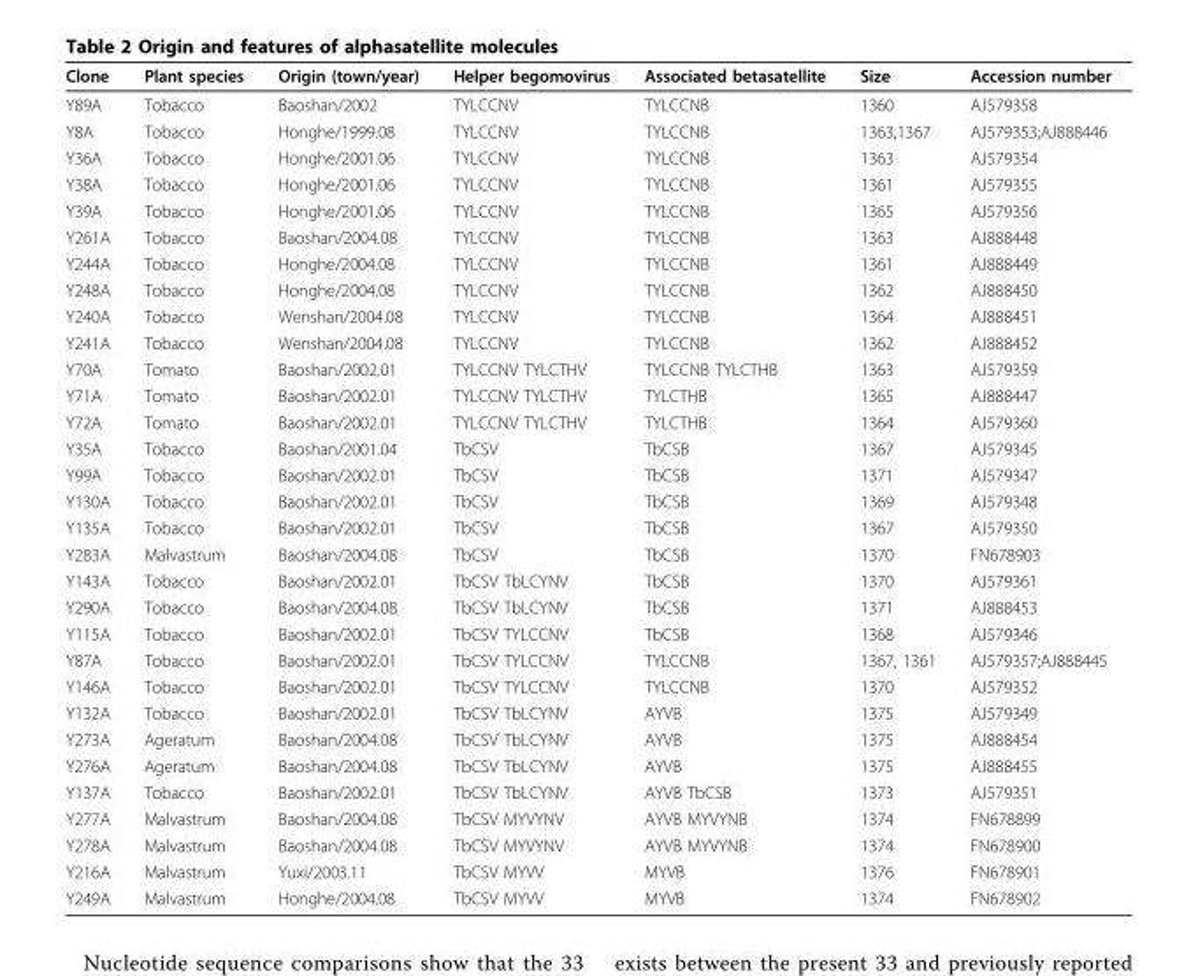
<table><thead><tr><td>Clone</td><td>Plant species</td><td>Origin (town/year)</td><td>Helper begomovirus</td><td>Associated betasatellite</td><td>Size</td><td>Accession number</td></tr></thead><tbody><tr><td>Y89A</td><td>Tobacco</td><td>Baoshan/2002</td><td>TYLCCNV</td><td>TYLCCNB</td><td>1360</td><td>AJ579358</td></tr><tr><td>Y8A</td><td>Tobacco</td><td>Honghe/1999.08</td><td>TYLCCNV</td><td>TYLCCNB</td><td>1363,1367</td><td>AJ579353;AJ888446</td></tr><tr><td>Y36A</td><td>Tobacco</td><td>Honghe/2001.06</td><td>TYLCCNV</td><td>TYLCCNB</td><td>1363</td><td>AJ579354</td></tr><tr><td>Y38A</td><td>Tobacco</td><td>Honghe/2001.06</td><td>TYLCCNV</td><td>TYLCCNB</td><td>1361</td><td>AJ579355</td></tr><tr><td>Y39A</td><td>Tobacco</td><td>Honghe/2001.06</td><td>TYLCCNV</td><td>TYLCCNB</td><td>1365</td><td>AJ579356</td></tr><tr><td>Y261A</td><td>Tobacco</td><td>Baoshan/2004.08</td><td>TYLCCNV</td><td>TYLCCNB</td><td>1363</td><td>AJ888448</td></tr><tr><td>Y244A</td><td>Tobacco</td><td>Honghe/2004.08</td><td>TYLCCNV</td><td>TYLCCNB</td><td>1361</td><td>AJ888449</td></tr><tr><td>Y248A</td><td>Tobacco</td><td>Honghe/2004.08</td><td>TYLCCNV</td><td>TYLCCNB</td><td>1362</td><td>AJ888450</td></tr><tr><td>Y240A</td><td>Tobacco</td><td>Wenshan/2004.08</td><td>TYLCCNV</td><td>TYLCCNB</td><td>1364</td><td>AJ888451</td></tr><tr><td>Y241A</td><td>Tobacco</td><td>Wenshan/2004.08</td><td>TYLCCNV</td><td>TYLCCNB</td><td>1362</td><td>AJ888452</td></tr><tr><td>Y70A</td><td>Tomato</td><td>Baoshan/2002.01</td><td>TYLCCNV TYLCTHV</td><td>TYLCCNB TYLCTHB</td><td>1363</td><td>AJ579359</td></tr><tr><td>Y71A</td><td>Tomato</td><td>Baoshan/2002.01</td><td>TYLCCNV TYLCTHV</td><td>TYLCTHB</td><td>1365</td><td>AJ888447</td></tr><tr><td>Y72A</td><td>Tomato</td><td>Baoshan/2002.01</td><td>TYLCCNV TYLCTHV</td><td>TYLCTHB</td><td>1364</td><td>AJ579360</td></tr><tr><td>Y35A</td><td>Tobacco</td><td>Baoshan/2001.04</td><td>TbCSV</td><td>TbCSB</td><td>1367</td><td>AJ579345</td></tr><tr><td>Y99A</td><td>Tobacco</td><td>Baoshan/2002.01</td><td>TbCSV</td><td>TbCSB</td><td>1371</td><td>AJ579347</td></tr><tr><td>Y130A</td><td>Tobacco</td><td>Baoshan/2002.01</td><td>TbCSV</td><td>TbCSB</td><td>1369</td><td>AJ579348</td></tr><tr><td>Y135A</td><td>Tobacco</td><td>Baoshan/2002.01</td><td>TbCSV</td><td>TbCSB</td><td>1367</td><td>AJ579350</td></tr><tr><td>Y283A</td><td>Malvastrum</td><td>Baoshan/2004.08</td><td>TbCSV</td><td>TbCSB</td><td>1370</td><td>FN678903</td></tr><tr><td>Y143A</td><td>Tobacco</td><td>Baoshan/2002.01</td><td>TbCSV TbLCYNV</td><td>TbCSB</td><td>1370</td><td>AJ579361</td></tr><tr><td>Y290A</td><td>Tobacco</td><td>Baoshan/2004.08</td><td>TbCSV TbLCYNV</td><td>TbCSB</td><td>1371</td><td>AJ888453</td></tr><tr><td>Y115A</td><td>Tobacco</td><td>Baoshan/2002.01</td><td>TbCSV TYLCCNV</td><td>TbCSB</td><td>1368</td><td>AJ579346</td></tr><tr><td>Y87A</td><td>Tobacco</td><td>Baoshan/2002.01</td><td>TbCSV TYLCCNV</td><td>TYLCCNB</td><td>1367, 1361</td><td>AJ579357;AJ888445</td></tr><tr><td>Y146A</td><td>Tobacco</td><td>Baoshan/2002.01</td><td>TbCSV TYLCCNV</td><td>TYLCCNB</td><td>1370</td><td>AJ579352</td></tr><tr><td>Y132A</td><td>Tobacco</td><td>Baoshan/2002.01</td><td>TbCSV TbLCYNV</td><td>AYVB</td><td>1375</td><td>AJ579349</td></tr><tr><td>Y273A</td><td>Ageratum</td><td>Baoshan/2004.08</td><td>TbCSV TbLCYNV</td><td>AYVB</td><td>1375</td><td>AJ888454</td></tr><tr><td>Y276A</td><td>Ageratum</td><td>Baoshan/2004.08</td><td>TbCSV TbLCYNV</td><td>AYVB</td><td>1375</td><td>AJ888455</td></tr><tr><td>Y137A</td><td>Tobacco</td><td>Baoshan/2002.01</td><td>TbCSV TbLCYNV</td><td>AYVB TbCSB</td><td>1373</td><td>AJ579351</td></tr><tr><td>Y277A</td><td>Malvastrum</td><td>Baoshan/2004.08</td><td>TbCSV MYVYNV</td><td>AYVB MYVYNB</td><td>1374</td><td>FN678899</td></tr><tr><td>Y278A</td><td>Malvastrum</td><td>Baoshan/2004.08</td><td>TbCSV MYVYNV</td><td>AYVB MYVYNB</td><td>1374</td><td>FN678900</td></tr><tr><td>Y216A</td><td>Malvastrum</td><td>Yuxi/2003.11</td><td>TbCSV MYVV</td><td>MYVB</td><td>1376</td><td>FN678901</td></tr><tr><td>Y249A</td><td>Malvastrum</td><td>Honghe/2004.08</td><td>TbCSV MYVV</td><td>MYVB</td><td>1374</td><td>FN678902</td></tr></tbody></table>